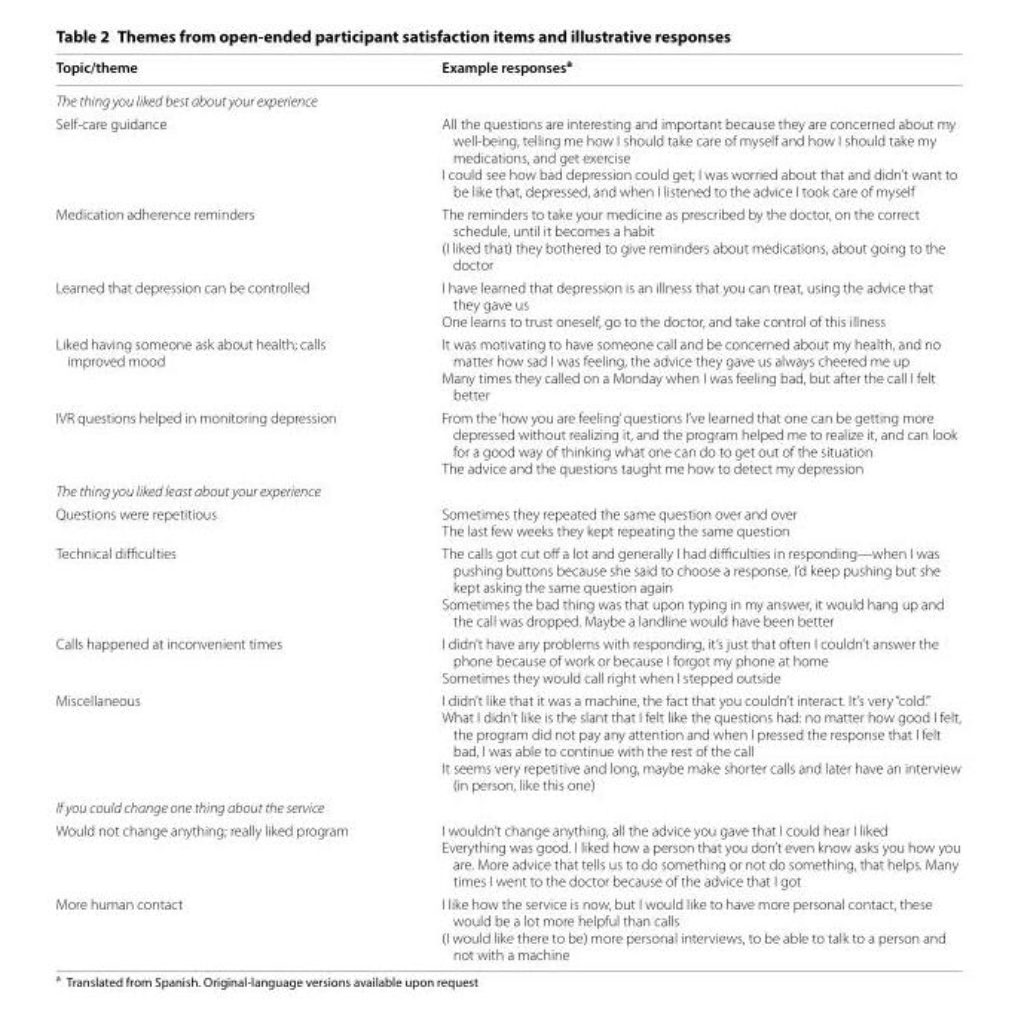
<table><thead><tr><td>Topic/theme</td><td>Example responses<sup>a</sup></td></tr></thead><tbody><tr><td colspan="2">The thing you liked best about your experience</td></tr><tr><td>Self-care guidance</td><td>All the questions are interesting and important because they are concerned about my well-being, telling me how I should take care of myself and how I should take my medications, and get exercise I could see how bad depression could get; I was worried about that and didn’t want to be like that, depressed, and when I listened to the advice I took care of myself</td></tr><tr><td>Medication adherence reminders</td><td>The reminders to take your medicine as prescribed by the doctor, on the correct schedule, until it becomes a habit (I liked that) they bothered to give reminders about medications, about going to the doctor</td></tr><tr><td>Learned that depression can be controlled</td><td>I have learned that depression is an illness that you can treat, using the advice that they gave us One learns to trust oneself, go to the doctor, and take control of this illness</td></tr><tr><td>Liked having someone ask about health; calls improved mood</td><td>It was motivating to have someone call and be concerned about my health, and no matter how sad I was feeling, the advice they gave us always cheered me up Many times they called on a Monday when I was feeling bad, but after the call I felt better</td></tr><tr><td>IVR questions helped in monitoring depression</td><td>From the ‘how you are feeling’ questions I’ve learned that one can be getting more depressed without realizing it, and the program helped me to realize it, and can look for a good way of thinking what one can do to get out of the situation The advice and the questions taught me how to detect my depression</td></tr><tr><td colspan="2">The thing you liked least about your experience</td></tr><tr><td>Questions were repetitious</td><td>Sometimes they repeated the same question over and over The last few weeks they kept repeating the same question</td></tr><tr><td>Technical difficulties</td><td>The calls got cut off a lot and generally I had difficulties in responding—when I was pushing buttons because she said to choose a response, I’d keep pushing but she kept asking the same question again Sometimes the bad thing was that upon typing in my answer, it would hang up and the call was dropped. Maybe a landline would have been better</td></tr><tr><td>Calls happened at inconvenient times</td><td>I didn’t have any problems with responding, it’s just that often I couldn’t answer the phone because of work or because I forgot my phone at home Sometimes they would call right when I stepped outside</td></tr><tr><td>Miscellaneous</td><td>I didn’t like that it was a machine, the fact that you couldn’t interact. It’s very “cold.” What I didn’t like is the slant that I felt like the questions had: no matter how good I felt, the program did not pay any attention and when I pressed the response that I felt bad, I was able to continue with the rest of the call It seems very repetitive and long, maybe make shorter calls and later have an interview (in person, like this one)</td></tr><tr><td colspan="2">If you could change one thing about the service</td></tr><tr><td>Would not change anything; really liked program</td><td>I wouldn’t change anything, all the advice you gave that I could hear I liked Everything was good. I liked how a person that you don’t even know asks you how you are. More advice that tells us to do something or not do something, that helps. Many times I went to the doctor because of the advice that I got</td></tr><tr><td>More human contact</td><td>I like how the service is now, but I would like to have more personal contact, these would be a lot more helpful than calls (I would like there to be) more personal interviews, to be able to talk to a person and not with a machine</td></tr></tbody></table>